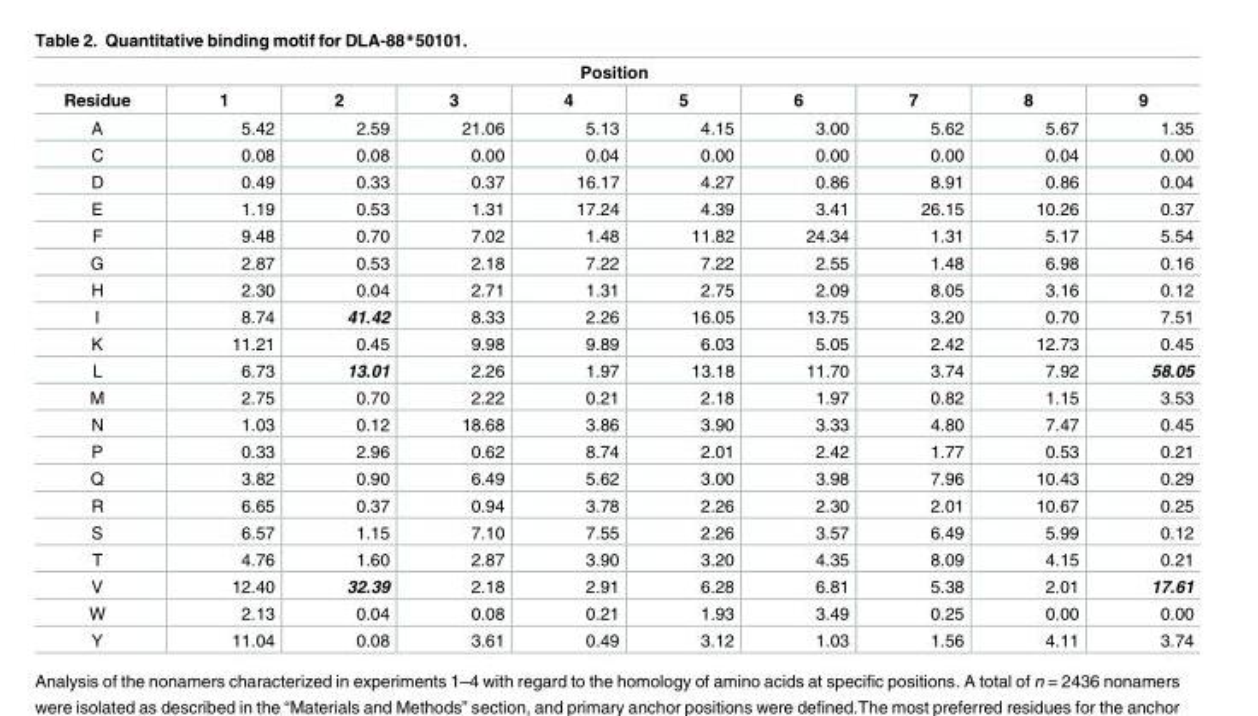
<table><thead><tr><td colspan="10">Position</td></tr><tr><td>Residue</td><td>1</td><td>2</td><td>3</td><td>4</td><td>5</td><td>6</td><td>7</td><td>8</td><td>9</td></tr></thead><tbody><tr><td>A</td><td>5.42</td><td>2.59</td><td>21.06</td><td>5.13</td><td>4.15</td><td>3.00</td><td>5.62</td><td>5.67</td><td>1.35</td></tr><tr><td>C</td><td>0.08</td><td>0.08</td><td>0.00</td><td>0.04</td><td>0.00</td><td>0.00</td><td>0.00</td><td>0.04</td><td>0.00</td></tr><tr><td>D</td><td>0.49</td><td>0.33</td><td>0.37</td><td>16.17</td><td>4.27</td><td>0.86</td><td>8.91</td><td>0.86</td><td>0.04</td></tr><tr><td>E</td><td>1.19</td><td>0.53</td><td>1.31</td><td>17.24</td><td>4.39</td><td>3.41</td><td>26.15</td><td>10.26</td><td>0.37</td></tr><tr><td>F</td><td>9.48</td><td>0.70</td><td>7.02</td><td>1.48</td><td>11.82</td><td>24.34</td><td>1.31</td><td>5.17</td><td>5.54</td></tr><tr><td>G</td><td>2.87</td><td>0.53</td><td>2.18</td><td>7.22</td><td>7.22</td><td>2.55</td><td>1.48</td><td>6.98</td><td>0.16</td></tr><tr><td>H</td><td>2.30</td><td>0.04</td><td>2.71</td><td>1.31</td><td>2.75</td><td>2.09</td><td>8.05</td><td>3.16</td><td>0.12</td></tr><tr><td>I</td><td>8.74</td><td>41.42</td><td>8.33</td><td>2.26</td><td>16.05</td><td>13.75</td><td>3.20</td><td>0.70</td><td>7.51</td></tr><tr><td>K</td><td>11.21</td><td>0.45</td><td>9.98</td><td>9.89</td><td>6.03</td><td>5.05</td><td>2.42</td><td>12.73</td><td>0.45</td></tr><tr><td>L</td><td>6.73</td><td>13.01</td><td>2.26</td><td>1.97</td><td>13.18</td><td>11.70</td><td>3.74</td><td>7.92</td><td>58.05</td></tr><tr><td>M</td><td>2.75</td><td>0.70</td><td>2.22</td><td>0.21</td><td>2.18</td><td>1.97</td><td>0.82</td><td>1.15</td><td>3.53</td></tr><tr><td>N</td><td>1.03</td><td>0.12</td><td>18.68</td><td>3.86</td><td>3.90</td><td>3.33</td><td>4.80</td><td>7.47</td><td>0.45</td></tr><tr><td>P</td><td>0.33</td><td>2.96</td><td>0.62</td><td>8.74</td><td>2.01</td><td>2.42</td><td>1.77</td><td>0.53</td><td>0.21</td></tr><tr><td>Q</td><td>3.82</td><td>0.90</td><td>6.49</td><td>5.62</td><td>3.00</td><td>3.98</td><td>7.96</td><td>10.43</td><td>0.29</td></tr><tr><td>R</td><td>6.65</td><td>0.37</td><td>0.94</td><td>3.78</td><td>2.26</td><td>2.30</td><td>2.01</td><td>10.67</td><td>0.25</td></tr><tr><td>S</td><td>6.57</td><td>1.15</td><td>7.10</td><td>7.55</td><td>2.26</td><td>3.57</td><td>6.49</td><td>5.99</td><td>0.12</td></tr><tr><td>T</td><td>4.76</td><td>1.60</td><td>2.87</td><td>3.90</td><td>3.20</td><td>4.35</td><td>8.09</td><td>4.15</td><td>0.21</td></tr><tr><td>V</td><td>12.40</td><td>32.39</td><td>2.18</td><td>2.91</td><td>6.28</td><td>6.81</td><td>5.38</td><td>2.01</td><td>17.61</td></tr><tr><td>W</td><td>2.13</td><td>0.04</td><td>0.08</td><td>0.21</td><td>1.93</td><td>3.49</td><td>0.25</td><td>0.00</td><td>0.00</td></tr><tr><td>Y</td><td>11.04</td><td>0.08</td><td>3.61</td><td>0.49</td><td>3.12</td><td>1.03</td><td>1.56</td><td>4.11</td><td>3.74</td></tr></tbody></table>